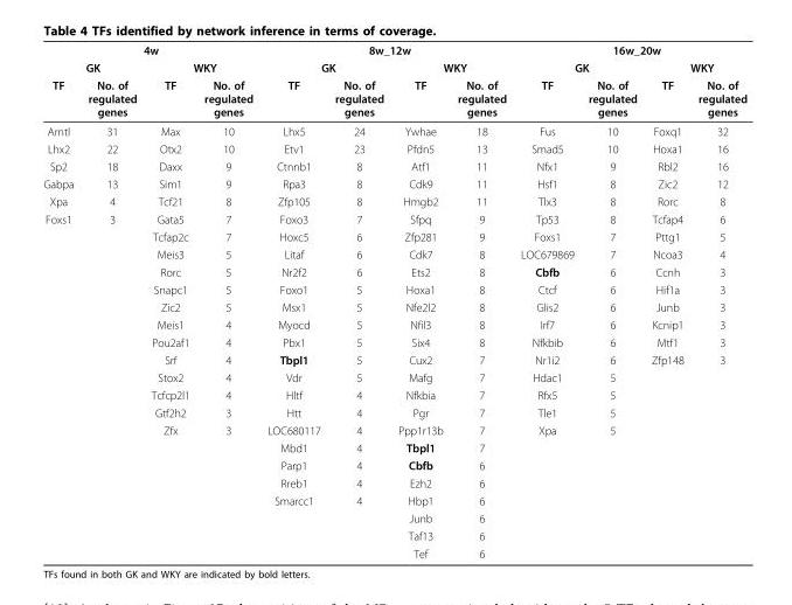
<table><thead><tr><td colspan="4">4w</td><td colspan="4">8w_12w</td><td colspan="4">16w_20w</td></tr><tr><td colspan="2">GK</td><td colspan="2">WKY</td><td colspan="2">GK</td><td colspan="2">WKY</td><td colspan="2">GK</td><td colspan="2">WKY</td></tr><tr><td>TF</td><td>No. of regulated genes</td><td>TF</td><td>No. of regulated genes</td><td>TF</td><td>No. of regulated genes</td><td>TF</td><td>No. of regulated genes</td><td>TF</td><td>No. of regulated genes</td><td>TF</td><td>No. of regulated genes</td></tr></thead><tbody><tr><td>Arntl</td><td>31</td><td>Max</td><td>10</td><td>Lhx5</td><td>24</td><td>Ywhae</td><td>18</td><td>Fus</td><td>10</td><td>Foxq1</td><td>32</td></tr><tr><td>Lhx2</td><td>22</td><td>Otx2</td><td>10</td><td>Etv1</td><td>23</td><td>Pfdn5</td><td>13</td><td>Smad5</td><td>10</td><td>Hoxa1</td><td>16</td></tr><tr><td>Sp2</td><td>18</td><td>Daxx</td><td>9</td><td>Ctnnb1</td><td>8</td><td>Atf1</td><td>11</td><td>Nfx1</td><td>9</td><td>Rbl2</td><td>16</td></tr><tr><td>Gabpa</td><td>13</td><td>Sim1</td><td>9</td><td>Rpa3</td><td>8</td><td>Cdk9</td><td>11</td><td>Hsf1</td><td>8</td><td>Zic2</td><td>12</td></tr><tr><td>Xpa</td><td>4</td><td>Tcf21</td><td>8</td><td>Zfp105</td><td>8</td><td>Hmgb2</td><td>11</td><td>Tlx3</td><td>8</td><td>Rorc</td><td>8</td></tr><tr><td rowspan="20">Foxs1</td><td>3</td><td>Gata5</td><td>7</td><td>Foxo3</td><td>7</td><td>Sfpq</td><td>9</td><td>Tp53</td><td>8</td><td>Tcfap4</td><td>6</td></tr><tr><td></td><td>Tcfap2c</td><td>7</td><td>Hoxc5</td><td>6</td><td>Zfp281</td><td>9</td><td>Foxs1</td><td>7</td><td>Pttg1</td><td>5</td></tr><tr><td></td><td>Meis3</td><td>5</td><td>Litaf</td><td>6</td><td>Cdk7</td><td>8</td><td>LOC679869</td><td>7</td><td>Ncoa3</td><td>4</td></tr><tr><td></td><td>Rorc</td><td>5</td><td>Nr2f2</td><td>6</td><td>Ets2</td><td>8</td><td>Cbfb</td><td>6</td><td>Ccnh</td><td>3</td></tr><tr><td></td><td>Snapc1</td><td>5</td><td>Foxo1</td><td>5</td><td>Hoxa1</td><td>8</td><td>Ctcf</td><td>6</td><td>Hif1a</td><td>3</td></tr><tr><td></td><td>Zic2</td><td>5</td><td>Msx1</td><td>5</td><td>Nfe2l2</td><td>8</td><td>Glis2</td><td>6</td><td>Junb</td><td>3</td></tr><tr><td></td><td>Meis1</td><td>4</td><td>Myocd</td><td>5</td><td>Nfil3</td><td>8</td><td>Irf7</td><td>6</td><td>Kcnip1</td><td>3</td></tr><tr><td></td><td>Pou2af1</td><td>4</td><td>Pbx1</td><td>5</td><td>Six4</td><td>8</td><td>Nfkbib</td><td>6</td><td>Mtf1</td><td>3</td></tr><tr><td></td><td>Srf</td><td>4</td><td>Tbpl1</td><td>5</td><td>Cux2</td><td>7</td><td>Nr1i2</td><td>6</td><td>Zfp148</td><td>3</td></tr><tr><td></td><td>Stox2</td><td>4</td><td>Vdr</td><td>5</td><td>Mafg</td><td>7</td><td>Hdac1</td><td>5</td><td></td><td></td></tr><tr><td></td><td>Tcfcp2l1</td><td>4</td><td>Hltf</td><td>4</td><td>Nfkbia</td><td>7</td><td>Rfx5</td><td>5</td><td></td><td></td></tr><tr><td></td><td>Gtf2h2</td><td>3</td><td>Htt</td><td>4</td><td>Pgr</td><td>7</td><td>Tle1</td><td>5</td><td></td><td></td></tr><tr><td></td><td>Zfx</td><td>3</td><td>LOC680117</td><td>4</td><td>Ppp1r13b</td><td>7</td><td>Xpa</td><td>5</td><td></td><td></td></tr><tr><td></td><td></td><td></td><td>Mbd1</td><td>4</td><td>Tbpl1</td><td>7</td><td></td><td></td><td></td><td></td></tr><tr><td></td><td></td><td></td><td>Parp1</td><td>4</td><td>Cbfb</td><td>6</td><td></td><td></td><td></td><td></td></tr><tr><td></td><td></td><td></td><td>Rreb1</td><td>4</td><td>Ezh2</td><td>6</td><td></td><td></td><td></td><td></td></tr><tr><td></td><td></td><td></td><td>Smarcc1</td><td>4</td><td>Hbp1</td><td>6</td><td></td><td></td><td></td><td></td></tr><tr><td></td><td></td><td></td><td></td><td></td><td>Junb</td><td>6</td><td></td><td></td><td></td><td></td></tr><tr><td></td><td></td><td></td><td></td><td></td><td>Taf13</td><td>6</td><td></td><td></td><td></td><td></td></tr><tr><td></td><td></td><td></td><td></td><td></td><td>Tef</td><td>6</td><td></td><td></td><td></td><td></td></tr></tbody></table>